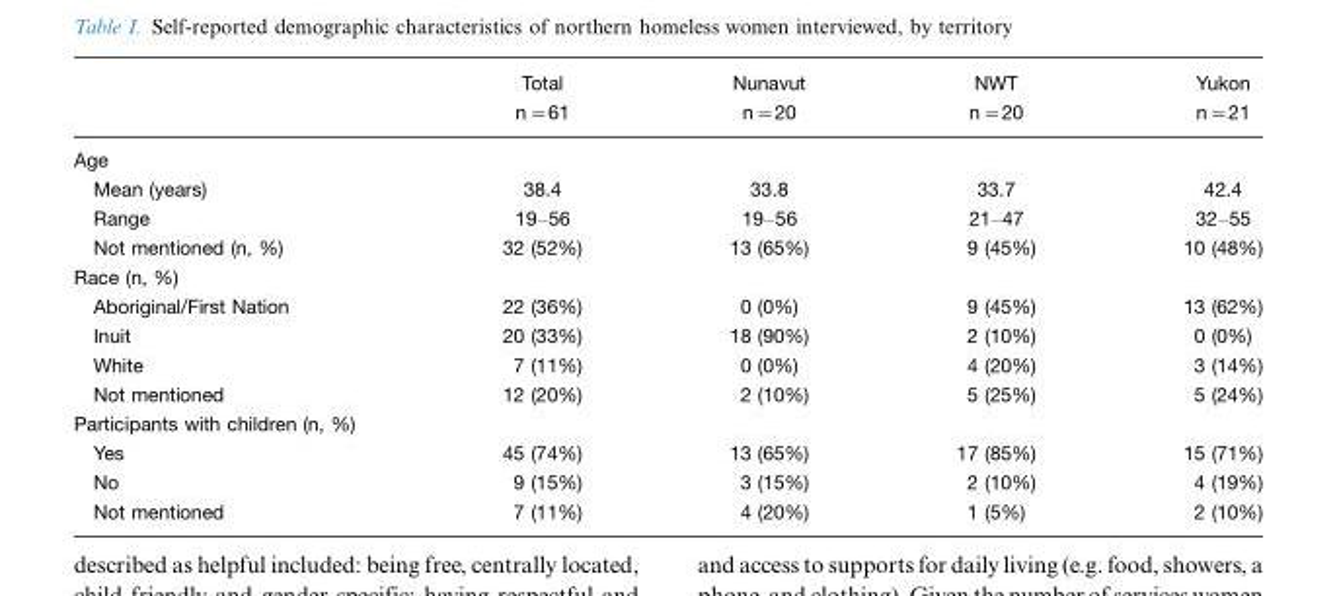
<table><thead><tr><td rowspan="2"></td><td rowspan="2">Total n=61</td><td rowspan="2">Nunavut n=20</td><td rowspan="2">NWT n=20</td><td rowspan="2">Yukon n=21</td></tr><tr></tr></thead><tbody><tr><td colspan="5">Age</td></tr><tr><td>Mean (years)</td><td>38.4</td><td>33.8</td><td>33.7</td><td>42.4</td></tr><tr><td>Range</td><td>19–56</td><td>19–56</td><td>21–47</td><td>32–55</td></tr><tr><td>Not mentioned (n, %)</td><td>32 (52%)</td><td>13 (65%)</td><td>9 (45%)</td><td>10 (48%)</td></tr><tr><td colspan="5">Race (n, %)</td></tr><tr><td>Aboriginal/First Nation</td><td>22 (36%)</td><td>0 (0%)</td><td>9 (45%)</td><td>13 (62%)</td></tr><tr><td>Inuit</td><td>20 (33%)</td><td>18 (90%)</td><td>2 (10%)</td><td>0 (0%)</td></tr><tr><td>White</td><td>7 (11%)</td><td>0 (0%)</td><td>4 (20%)</td><td>3 (14%)</td></tr><tr><td>Not mentioned</td><td>12 (20%)</td><td>2 (10%)</td><td>5 (25%)</td><td>5 (24%)</td></tr><tr><td colspan="5">Participants with children (n, %)</td></tr><tr><td>Yes</td><td>45 (74%)</td><td>13 (65%)</td><td>17 (85%)</td><td>15 (71%)</td></tr><tr><td>No</td><td>9 (15%)</td><td>3 (15%)</td><td>2 (10%)</td><td>4 (19%)</td></tr><tr><td>Not mentioned</td><td>7 (11%)</td><td>4 (20%)</td><td>1 (5%)</td><td>2 (10%)</td></tr></tbody></table>